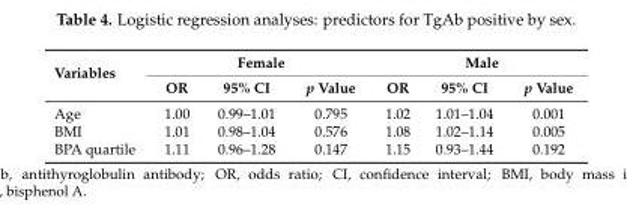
<table><thead><tr><td rowspan="2">Variables</td><td colspan="3">Female</td><td colspan="3">Male</td></tr><tr><td>OR</td><td>95% CI</td><td>p Value</td><td>OR</td><td>95% CI</td><td>p Value</td></tr></thead><tbody><tr><td>Age</td><td>1.00</td><td>0.99–1.01</td><td>0.795</td><td>1.02</td><td>1.01–1.04</td><td>0.001</td></tr><tr><td>BMI</td><td>1.01</td><td>0.98–1.04</td><td>0.576</td><td>1.08</td><td>1.02–1.14</td><td>0.005</td></tr><tr><td>BPA quartile</td><td>1.11</td><td>0.96–1.28</td><td>0.147</td><td>1.15</td><td>0.93–1.44</td><td>0.192</td></tr></tbody></table>